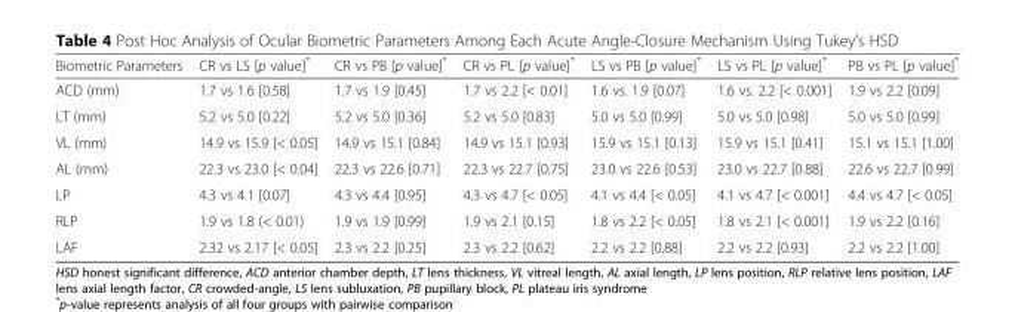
<table><thead><tr><td>Biometric Parameters</td><td>CR vs LS [p value]*</td><td>CR vs PB [p value]*</td><td>CR vs PL [p value]*</td><td>LS vs PB [p value]*</td><td>LS vs PL [p value]*</td><td>PB vs PL [p value]*</td></tr></thead><tbody><tr><td>ACD (mm)</td><td>1.7 vs 1.6 [0.58]</td><td>1.7 vs 1.9 [0.45]</td><td>1.7 vs 2.2 [&lt; 0.01]</td><td>1.6 vs. 1.9 [0.07]</td><td>1.6 vs. 2.2 [&lt; 0.001]</td><td>1.9 vs 2.2 [0.09]</td></tr><tr><td>LT (mm)</td><td>5.2 vs 5.0 [0.22]</td><td>5.2 vs 5.0 [0.36]</td><td>5.2 vs 5.0 [0.83]</td><td>5.0 vs 5.0 [0.99]</td><td>5.0 vs 5.0 [0.98]</td><td>5.0 vs 5.0 [0.99]</td></tr><tr><td>VL (mm)</td><td>14.9 vs 15.9 [&lt; 0.05]</td><td>14.9 vs 15.1 [0.84]</td><td>14.9 vs 15.1 [0.93]</td><td>15.9 vs 15.1 [0.13]</td><td>15.9 vs 15.1 [0.41]</td><td>15.1 vs 15.1 [1.00]</td></tr><tr><td>AL (mm)</td><td>22.3 vs 23.0 [&lt; 0.04]</td><td>22.3 vs 22.6 [0.71]</td><td>22.3 vs 22.7 [0.75]</td><td>23.0 vs 22.6 [0.53]</td><td>23.0 vs 22.7 [0.88]</td><td>22.6 vs 22.7 [0.99]</td></tr><tr><td>LP</td><td>4.3 vs 4.1 [0.07]</td><td>4.3 vs 4.4 [0.95]</td><td>4.3 vs 4.7 [&lt; 0.05]</td><td>4.1 vs 4.4 [&lt; 0.05]</td><td>4.1 vs 4.7 [&lt; 0.001]</td><td>4.4 vs 4.7 [&lt; 0.05]</td></tr><tr><td>RLP</td><td>1.9 vs 1.8 (&lt; 0.01)</td><td>1.9 vs 1.9 [0.99]</td><td>1.9 vs 2.1 [0.15]</td><td>1.8 vs 2.2 [&lt; 0.05]</td><td>1.8 vs 2.1 [&lt; 0.001]</td><td>1.9 vs 2.2 [0.16]</td></tr><tr><td>LAF</td><td>2.32 vs 2.17 [&lt; 0.05]</td><td>2.3 vs 2.2 [0.25]</td><td>2.3 vs 2.2 [0.62]</td><td>2.2 vs 2.2 [0.88]</td><td>2.2 vs 2.2 [0.93]</td><td>2.2 vs 2.2 [1.00]</td></tr></tbody></table>